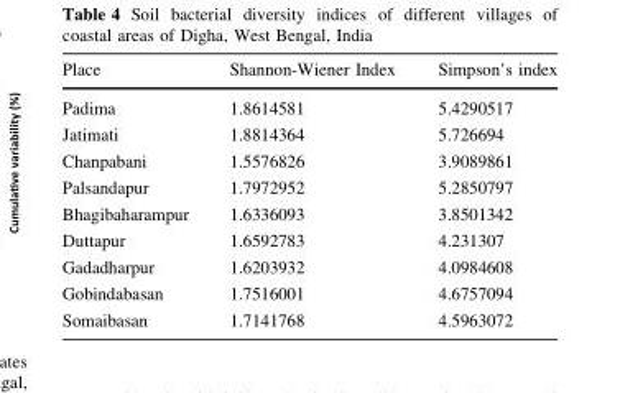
<table><thead><tr><td>Place</td><td>Shannon-Wiener Index</td><td>Simpson’s index</td></tr></thead><tbody><tr><td>Padima</td><td>1.8614581</td><td>5.4290517</td></tr><tr><td>Jatimati</td><td>1.8814364</td><td>5.726694</td></tr><tr><td>Chanpabani</td><td>1.5576826</td><td>3.9089861</td></tr><tr><td>Palsandapur</td><td>1.7972952</td><td>5.2850797</td></tr><tr><td>Bhagibaharampur</td><td>1.6336093</td><td>3.8501342</td></tr><tr><td>Duttapur</td><td>1.6592783</td><td>4.231307</td></tr><tr><td>Gadadharpur</td><td>1.6203932</td><td>4.0984608</td></tr><tr><td>Gobindabasan</td><td>1.7516001</td><td>4.6757094</td></tr><tr><td>Somaibasan</td><td>1.7141768</td><td>4.5963072</td></tr></tbody></table>